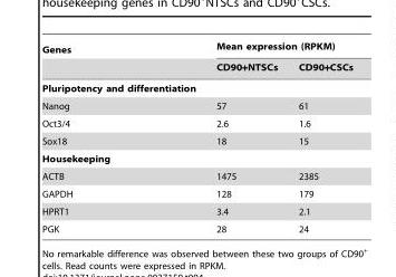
<table><thead><tr><td rowspan="2">Genes</td><td colspan="2">Mean expression (RPKM)</td></tr><tr><td>CD90+NTSCs</td><td>CD90+CSCs</td></tr></thead><tbody><tr><td colspan="3">Pluripotency and differentiation</td></tr><tr><td>Nanog</td><td>57</td><td>61</td></tr><tr><td>Oct3/4</td><td>2.6</td><td>1.6</td></tr><tr><td>Sox18</td><td>18</td><td>15</td></tr><tr><td colspan="3">Housekeeping</td></tr><tr><td>ACTB</td><td>1475</td><td>2385</td></tr><tr><td>GAPDH</td><td>128</td><td>179</td></tr><tr><td>HPRT1</td><td>3.4</td><td>2.1</td></tr><tr><td>PGK</td><td>28</td><td>24</td></tr></tbody></table>